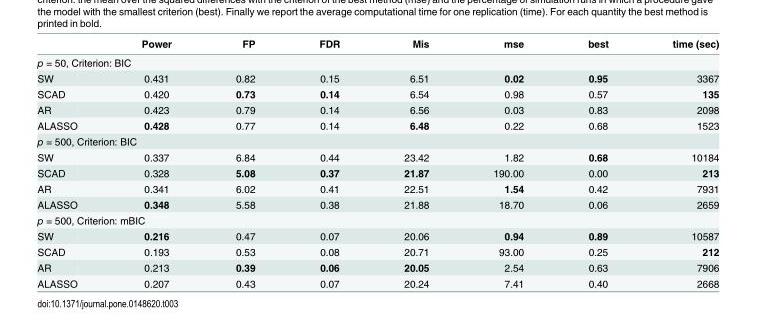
<table><thead><tr><td></td><td>Power</td><td>FP</td><td>FDR</td><td>Mis</td><td>mse</td><td>best</td><td>time (sec)</td></tr></thead><tbody><tr><td colspan="8">p = 50, Criterion: BIC</td></tr><tr><td>SW</td><td>0.431</td><td>0.82</td><td>0.15</td><td>6.51</td><td>0.02</td><td>0.95</td><td>3367</td></tr><tr><td>SCAD</td><td>0.420</td><td>0.73</td><td>0.14</td><td>6.54</td><td>0.98</td><td>0.57</td><td>135</td></tr><tr><td>AR</td><td>0.423</td><td>0.79</td><td>0.14</td><td>6.56</td><td>0.03</td><td>0.83</td><td>2098</td></tr><tr><td>ALASSO</td><td>0.428</td><td>0.77</td><td>0.14</td><td>6.48</td><td>0.22</td><td>0.68</td><td>1523</td></tr><tr><td colspan="8">p = 500, Criterion: BIC</td></tr><tr><td>SW</td><td>0.337</td><td>6.84</td><td>0.44</td><td>23.42</td><td>1.82</td><td>0.68</td><td>10184</td></tr><tr><td>SCAD</td><td>0.328</td><td>5.08</td><td>0.37</td><td>21.87</td><td>190.00</td><td>0.00</td><td>213</td></tr><tr><td>AR</td><td>0.341</td><td>6.02</td><td>0.41</td><td>22.51</td><td>1.54</td><td>0.42</td><td>7931</td></tr><tr><td>ALASSO</td><td>0.348</td><td>5.58</td><td>0.38</td><td>21.88</td><td>18.70</td><td>0.06</td><td>2659</td></tr><tr><td colspan="8">p = 500, Criterion: mBIC</td></tr><tr><td>SW</td><td>0.216</td><td>0.47</td><td>0.07</td><td>20.06</td><td>0.94</td><td>0.89</td><td>10587</td></tr><tr><td>SCAD</td><td>0.193</td><td>0.53</td><td>0.08</td><td>20.71</td><td>93.00</td><td>0.25</td><td>212</td></tr><tr><td>AR</td><td>0.213</td><td>0.39</td><td>0.06</td><td>20.05</td><td>2.54</td><td>0.63</td><td>7906</td></tr><tr><td>ALASSO</td><td>0.207</td><td>0.43</td><td>0.07</td><td>20.24</td><td>7.41</td><td>0.40</td><td>2668</td></tr></tbody></table>